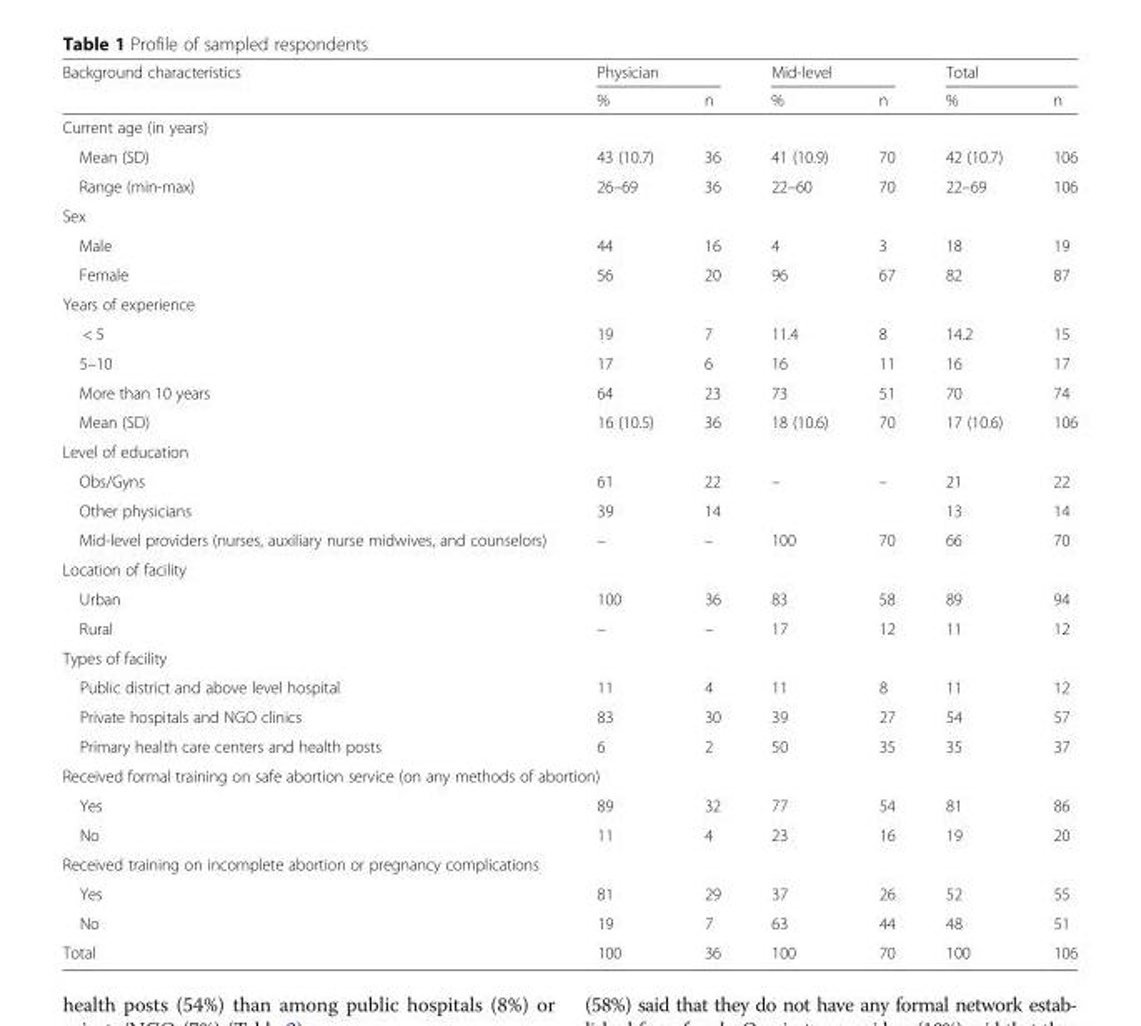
<table><thead><tr><td rowspan="2">Background characteristics</td><td colspan="2">Physician</td><td colspan="2">Mid-level</td><td colspan="2">Total</td></tr><tr><td>%</td><td>n</td><td>%</td><td>n</td><td>%</td><td>n</td></tr></thead><tbody><tr><td colspan="7">Current age (in years)</td></tr><tr><td>Mean (SD)</td><td>43 (10.7)</td><td>36</td><td>41 (10.9)</td><td>70</td><td>42 (10.7)</td><td>106</td></tr><tr><td>Range (min-max)</td><td>26–69</td><td>36</td><td>22–60</td><td>70</td><td>22–69</td><td>106</td></tr><tr><td colspan="7">Sex</td></tr><tr><td>Male</td><td>44</td><td>16</td><td>4</td><td>3</td><td>18</td><td>19</td></tr><tr><td>Female</td><td>56</td><td>20</td><td>96</td><td>67</td><td>82</td><td>87</td></tr><tr><td colspan="7">Years of experience</td></tr><tr><td>&lt; 5</td><td>19</td><td>7</td><td>11.4</td><td>8</td><td>14.2</td><td>15</td></tr><tr><td>5–10</td><td>17</td><td>6</td><td>16</td><td>11</td><td>16</td><td>17</td></tr><tr><td>More than 10 years</td><td>64</td><td>23</td><td>73</td><td>51</td><td>70</td><td>74</td></tr><tr><td>Mean (SD)</td><td>16 (10.5)</td><td>36</td><td>18 (10.6)</td><td>70</td><td>17 (10.6)</td><td>106</td></tr><tr><td colspan="7">Level of education</td></tr><tr><td>Obs/Gyns</td><td>61</td><td>22</td><td>–</td><td>–</td><td>21</td><td>22</td></tr><tr><td>Other physicians</td><td>39</td><td>14</td><td></td><td></td><td>13</td><td>14</td></tr><tr><td>Mid-level providers (nurses, auxiliary nurse midwives, and counselors)</td><td>–</td><td>–</td><td>100</td><td>70</td><td>66</td><td>70</td></tr><tr><td colspan="7">Location of facility</td></tr><tr><td>Urban</td><td>100</td><td>36</td><td>83</td><td>58</td><td>89</td><td>94</td></tr><tr><td>Rural</td><td>–</td><td>–</td><td>17</td><td>12</td><td>11</td><td>12</td></tr><tr><td colspan="7">Types of facility</td></tr><tr><td>Public district and above level hospital</td><td>11</td><td>4</td><td>11</td><td>8</td><td>11</td><td>12</td></tr><tr><td>Private hospitals and NGO clinics</td><td>83</td><td>30</td><td>39</td><td>27</td><td>54</td><td>57</td></tr><tr><td>Primary health care centers and health posts</td><td>6</td><td>2</td><td>50</td><td>35</td><td>35</td><td>37</td></tr><tr><td colspan="7">Received formal training on safe abortion service (on any methods of abortion)</td></tr><tr><td>Yes</td><td>89</td><td>32</td><td>77</td><td>54</td><td>81</td><td>86</td></tr><tr><td>No</td><td>11</td><td>4</td><td>23</td><td>16</td><td>19</td><td>20</td></tr><tr><td colspan="7">Received training on incomplete abortion or pregnancy complications</td></tr><tr><td>Yes</td><td>81</td><td>29</td><td>37</td><td>26</td><td>52</td><td>55</td></tr><tr><td>No</td><td>19</td><td>7</td><td>63</td><td>44</td><td>48</td><td>51</td></tr><tr><td>Total</td><td>100</td><td>36</td><td>100</td><td>70</td><td>100</td><td>106</td></tr></tbody></table>